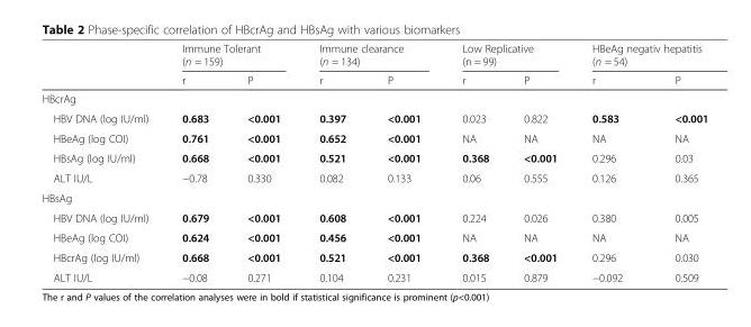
<table><thead><tr><td rowspan="2"></td><td colspan="2">Immune Tolerant (n = 159)</td><td colspan="2">Immune clearance (n = 134)</td><td colspan="2">Low Replicative (n = 99)</td><td colspan="2">HBeAg negativ hepatitis (n = 54)</td></tr><tr><td>r</td><td>P</td><td>r</td><td>P</td><td>r</td><td>P</td><td>r</td><td>P</td></tr></thead><tbody><tr><td colspan="9">HBcrAg</td></tr><tr><td>HBV DNA (log IU/ml)</td><td>0.683</td><td>&lt;0.001</td><td>0.397</td><td>&lt;0.001</td><td>0.023</td><td>0.822</td><td>0.583</td><td>&lt;0.001</td></tr><tr><td>HBeAg (log COI)</td><td>0.761</td><td>&lt;0.001</td><td>0.652</td><td>&lt;0.001</td><td>NA</td><td>NA</td><td>NA</td><td>NA</td></tr><tr><td>HBsAg (log IU/ml)</td><td>0.668</td><td>&lt;0.001</td><td>0.521</td><td>&lt;0.001</td><td>0.368</td><td>&lt;0.001</td><td>0.296</td><td>0.03</td></tr><tr><td>ALT IU/L</td><td>−0.78</td><td>0.330</td><td>0.082</td><td>0.133</td><td>0.06</td><td>0.555</td><td>0.126</td><td>0.365</td></tr><tr><td colspan="9">HBsAg</td></tr><tr><td>HBV DNA (log IU/ml)</td><td>0.679</td><td>&lt;0.001</td><td>0.608</td><td>&lt;0.001</td><td>0.224</td><td>0.026</td><td>0.380</td><td>0.005</td></tr><tr><td>HBeAg (log COI)</td><td>0.624</td><td>&lt;0.001</td><td>0.456</td><td>&lt;0.001</td><td>NA</td><td>NA</td><td>NA</td><td>NA</td></tr><tr><td>HBcrAg (log IU/ml)</td><td>0.668</td><td>&lt;0.001</td><td>0.521</td><td>&lt;0.001</td><td>0.368</td><td>&lt;0.001</td><td>0.296</td><td>0.030</td></tr><tr><td>ALT IU/L</td><td>−0.08</td><td>0.271</td><td>0.104</td><td>0.231</td><td>0.015</td><td>0.879</td><td>−0.092</td><td>0.509</td></tr></tbody></table>